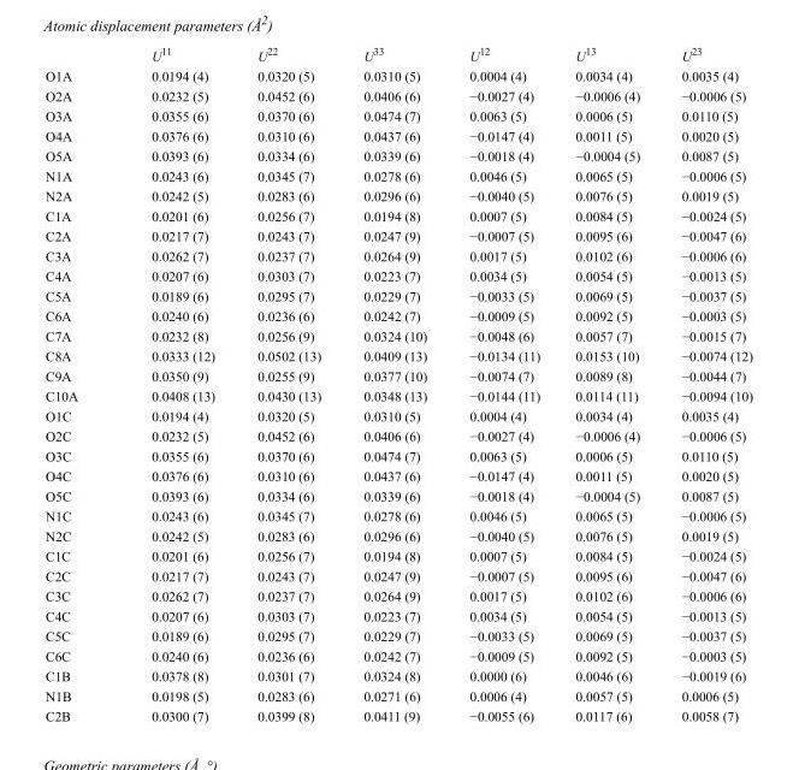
<table><thead><tr><td></td><td>U<sup>11</sup></td><td>U<sup>22</sup></td><td>U<sup>33</sup></td><td>U<sup>12</sup></td><td>U<sup>13</sup></td><td>U<sup>23</sup></td></tr></thead><tbody><tr><td>O1A</td><td>0.0194 (4)</td><td>0.0320 (5)</td><td>0.0310 (5)</td><td>0.0004 (4)</td><td>0.0034 (4)</td><td>0.0035 (4)</td></tr><tr><td>O2A</td><td>0.0232 (5)</td><td>0.0452 (6)</td><td>0.0406 (6)</td><td>−0.0027 (4)</td><td>−0.0006 (4)</td><td>−0.0006 (5)</td></tr><tr><td>O3A</td><td>0.0355 (6)</td><td>0.0370 (6)</td><td>0.0474 (7)</td><td>0.0063 (5)</td><td>0.0006 (5)</td><td>0.0110 (5)</td></tr><tr><td>O4A</td><td>0.0376 (6)</td><td>0.0310 (6)</td><td>0.0437 (6)</td><td>−0.0147 (4)</td><td>0.0011 (5)</td><td>0.0020 (5)</td></tr><tr><td>O5A</td><td>0.0393 (6)</td><td>0.0334 (6)</td><td>0.0339 (6)</td><td>−0.0018 (4)</td><td>−0.0004 (5)</td><td>0.0087 (5)</td></tr><tr><td>N1A</td><td>0.0243 (6)</td><td>0.0345 (7)</td><td>0.0278 (6)</td><td>0.0046 (5)</td><td>0.0065 (5)</td><td>−0.0006 (5)</td></tr><tr><td>N2A</td><td>0.0242 (5)</td><td>0.0283 (6)</td><td>0.0296 (6)</td><td>−0.0040 (5)</td><td>0.0076 (5)</td><td>0.0019 (5)</td></tr><tr><td>C1A</td><td>0.0201 (6)</td><td>0.0256 (7)</td><td>0.0194 (8)</td><td>0.0007 (5)</td><td>0.0084 (5)</td><td>−0.0024 (5)</td></tr><tr><td>C2A</td><td>0.0217 (7)</td><td>0.0243 (7)</td><td>0.0247 (9)</td><td>−0.0007 (5)</td><td>0.0095 (6)</td><td>−0.0047 (6)</td></tr><tr><td>C3A</td><td>0.0262 (7)</td><td>0.0237 (7)</td><td>0.0264 (9)</td><td>0.0017 (5)</td><td>0.0102 (6)</td><td>−0.0006 (6)</td></tr><tr><td>C4A</td><td>0.0207 (6)</td><td>0.0303 (7)</td><td>0.0223 (7)</td><td>0.0034 (5)</td><td>0.0054 (5)</td><td>−0.0013 (5)</td></tr><tr><td>C5A</td><td>0.0189 (6)</td><td>0.0295 (7)</td><td>0.0229 (7)</td><td>−0.0033 (5)</td><td>0.0069 (5)</td><td>−0.0037 (5)</td></tr><tr><td>C6A</td><td>0.0240 (6)</td><td>0.0236 (6)</td><td>0.0242 (7)</td><td>−0.0009 (5)</td><td>0.0092 (5)</td><td>−0.0003 (5)</td></tr><tr><td>C7A</td><td>0.0232 (8)</td><td>0.0256 (9)</td><td>0.0324 (10)</td><td>−0.0048 (6)</td><td>0.0057 (7)</td><td>−0.0015 (7)</td></tr><tr><td>C8A</td><td>0.0333 (12)</td><td>0.0502 (13)</td><td>0.0409 (13)</td><td>−0.0134 (11)</td><td>0.0153 (10)</td><td>−0.0074 (12)</td></tr><tr><td>C9A</td><td>0.0350 (9)</td><td>0.0255 (9)</td><td>0.0377 (10)</td><td>−0.0074 (7)</td><td>0.0089 (8)</td><td>−0.0044 (7)</td></tr><tr><td>C10A</td><td>0.0408 (13)</td><td>0.0430 (13)</td><td>0.0348 (13)</td><td>−0.0144 (11)</td><td>0.0114 (11)</td><td>−0.0094 (10)</td></tr><tr><td>O1C</td><td>0.0194 (4)</td><td>0.0320 (5)</td><td>0.0310 (5)</td><td>0.0004 (4)</td><td>0.0034 (4)</td><td>0.0035 (4)</td></tr><tr><td>O2C</td><td>0.0232 (5)</td><td>0.0452 (6)</td><td>0.0406 (6)</td><td>−0.0027 (4)</td><td>−0.0006 (4)</td><td>−0.0006 (5)</td></tr><tr><td>O3C</td><td>0.0355 (6)</td><td>0.0370 (6)</td><td>0.0474 (7)</td><td>0.0063 (5)</td><td>0.0006 (5)</td><td>0.0110 (5)</td></tr><tr><td>O4C</td><td>0.0376 (6)</td><td>0.0310 (6)</td><td>0.0437 (6)</td><td>−0.0147 (4)</td><td>0.0011 (5)</td><td>0.0020 (5)</td></tr><tr><td>O5C</td><td>0.0393 (6)</td><td>0.0334 (6)</td><td>0.0339 (6)</td><td>−0.0018 (4)</td><td>−0.0004 (5)</td><td>0.0087 (5)</td></tr><tr><td>N1C</td><td>0.0243 (6)</td><td>0.0345 (7)</td><td>0.0278 (6)</td><td>0.0046 (5)</td><td>0.0065 (5)</td><td>−0.0006 (5)</td></tr><tr><td>N2C</td><td>0.0242 (5)</td><td>0.0283 (6)</td><td>0.0296 (6)</td><td>−0.0040 (5)</td><td>0.0076 (5)</td><td>0.0019 (5)</td></tr><tr><td>C1C</td><td>0.0201 (6)</td><td>0.0256 (7)</td><td>0.0194 (8)</td><td>0.0007 (5)</td><td>0.0084 (5)</td><td>−0.0024 (5)</td></tr><tr><td>C2C</td><td>0.0217 (7)</td><td>0.0243 (7)</td><td>0.0247 (9)</td><td>−0.0007 (5)</td><td>0.0095 (6)</td><td>−0.0047 (6)</td></tr><tr><td>C3C</td><td>0.0262 (7)</td><td>0.0237 (7)</td><td>0.0264 (9)</td><td>0.0017 (5)</td><td>0.0102 (6)</td><td>−0.0006 (6)</td></tr><tr><td>C4C</td><td>0.0207 (6)</td><td>0.0303 (7)</td><td>0.0223 (7)</td><td>0.0034 (5)</td><td>0.0054 (5)</td><td>−0.0013 (5)</td></tr><tr><td>C5C</td><td>0.0189 (6)</td><td>0.0295 (7)</td><td>0.0229 (7)</td><td>−0.0033 (5)</td><td>0.0069 (5)</td><td>−0.0037 (5)</td></tr><tr><td>C6C</td><td>0.0240 (6)</td><td>0.0236 (6)</td><td>0.0242 (7)</td><td>−0.0009 (5)</td><td>0.0092 (5)</td><td>−0.0003 (5)</td></tr><tr><td>C1B</td><td>0.0378 (8)</td><td>0.0301 (7)</td><td>0.0324 (8)</td><td>0.0000 (6)</td><td>0.0046 (6)</td><td>−0.0019 (6)</td></tr><tr><td>N1B</td><td>0.0198 (5)</td><td>0.0283 (6)</td><td>0.0271 (6)</td><td>0.0006 (4)</td><td>0.0057 (5)</td><td>0.0006 (5)</td></tr><tr><td>C2B</td><td>0.0300 (7)</td><td>0.0399 (8)</td><td>0.0411 (9)</td><td>−0.0055 (6)</td><td>0.0117 (6)</td><td>0.0058 (7)</td></tr></tbody></table>